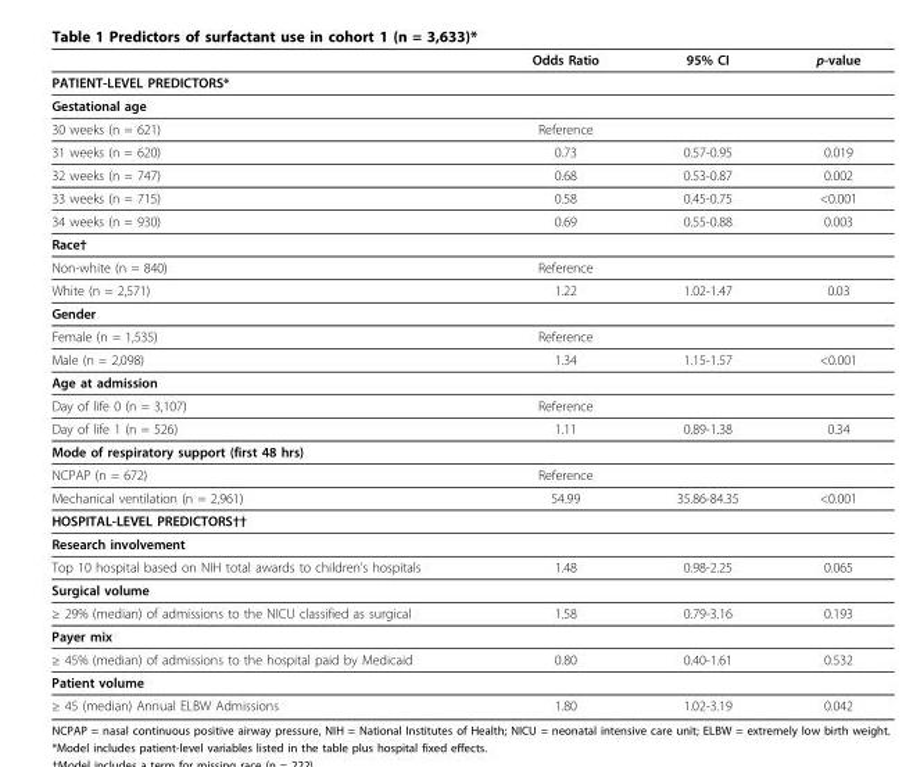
<table><thead><tr><td></td><td>Odds Ratio</td><td>95% CI</td><td>p-value</td></tr></thead><tbody><tr><td colspan="4">PATIENT-LEVEL PREDICTORS*</td></tr><tr><td colspan="4">Gestational age</td></tr><tr><td>30 weeks (n = 621)</td><td>Reference</td><td></td><td></td></tr><tr><td>31 weeks (n = 620)</td><td>0.73</td><td>0.57-0.95</td><td>0.019</td></tr><tr><td>32 weeks (n = 747)</td><td>0.68</td><td>0.53-0.87</td><td>0.002</td></tr><tr><td>33 weeks (n = 715)</td><td>0.58</td><td>0.45-0.75</td><td>&lt;0.001</td></tr><tr><td>34 weeks (n = 930)</td><td>0.69</td><td>0.55-0.88</td><td>0.003</td></tr><tr><td colspan="4">Race†</td></tr><tr><td>Non-white (n = 840)</td><td>Reference</td><td></td><td></td></tr><tr><td>White (n = 2,571)</td><td>1.22</td><td>1.02-1.47</td><td>0.03</td></tr><tr><td colspan="4">Gender</td></tr><tr><td>Female (n = 1,535)</td><td>Reference</td><td></td><td></td></tr><tr><td>Male (n = 2,098)</td><td>1.34</td><td>1.15-1.57</td><td>&lt;0.001</td></tr><tr><td colspan="4">Age at admission</td></tr><tr><td>Day of life 0 (n = 3,107)</td><td>Reference</td><td></td><td></td></tr><tr><td>Day of life 1 (n = 526)</td><td>1.11</td><td>0.89-1.38</td><td>0.34</td></tr><tr><td colspan="4">Mode of respiratory support (first 48 hrs)</td></tr><tr><td>NCPAP (n = 672)</td><td>Reference</td><td></td><td></td></tr><tr><td>Mechanical ventilation (n = 2,961)</td><td>54.99</td><td>35.86-84.35</td><td>&lt;0.001</td></tr><tr><td colspan="4">HOSPITAL-LEVEL PREDICTORS††</td></tr><tr><td colspan="4">Research involvement</td></tr><tr><td>Top 10 hospital based on NIH total awards to children’s hospitals</td><td>1.48</td><td>0.98-2.25</td><td>0.065</td></tr><tr><td colspan="4">Surgical volume</td></tr><tr><td>≥ 29% (median) of admissions to the NICU classified as surgical</td><td>1.58</td><td>0.79-3.16</td><td>0.193</td></tr><tr><td colspan="4">Payer mix</td></tr><tr><td>≥ 45% (median) of admissions to the hospital paid by Medicaid</td><td>0.80</td><td>0.40-1.61</td><td>0.532</td></tr><tr><td colspan="4">Patient volume</td></tr><tr><td>≥ 45 (median) Annual ELBW Admissions</td><td>1.80</td><td>1.02-3.19</td><td>0.042</td></tr></tbody></table>